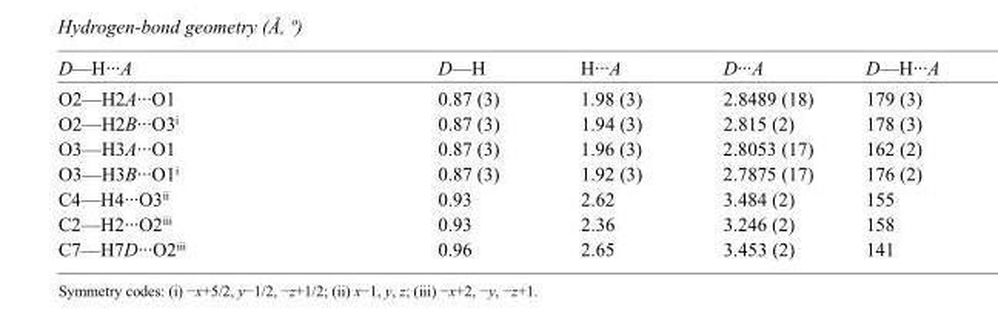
<table><tbody><tr><td>D—H···A</td><td>D—H</td><td>H···A</td><td>D···A</td><td>D—H···A</td></tr><tr><td>O2—H2A···O1</td><td>0.87 (3)</td><td>1.98 (3)</td><td>2.8489 (18)</td><td>179 (3)</td></tr><tr><td>O2—H2B···O3<sup>i</sup></td><td>0.87 (3)</td><td>1.94 (3)</td><td>2.815 (2)</td><td>178 (3)</td></tr><tr><td>O3—H3A···O1</td><td>0.87 (3)</td><td>1.96 (3)</td><td>2.8053 (17)</td><td>162 (2)</td></tr><tr><td>O3—H3B···O1<sup>i</sup></td><td>0.87 (3)</td><td>1.92 (3)</td><td>2.7875 (17)</td><td>176 (2)</td></tr><tr><td>C4—H4···O3<sup>ii</sup></td><td>0.93</td><td>2.62</td><td>3.484 (2)</td><td>155</td></tr><tr><td>C2—H2···O2<sup>iii</sup></td><td>0.93</td><td>2.36</td><td>3.246 (2)</td><td>158</td></tr><tr><td>C7—H7D···O2<sup>iii</sup></td><td>0.96</td><td>2.65</td><td>3.453 (2)</td><td>141</td></tr></tbody></table>